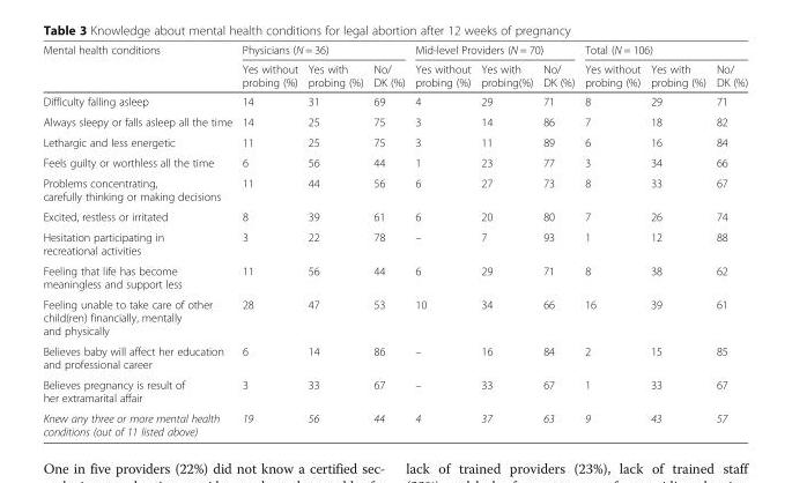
<table><thead><tr><td rowspan="2">Mental health conditions</td><td colspan="3">Physicians (N = 36)</td><td colspan="3">Mid-level Providers (N = 70)</td><td colspan="3">Total (N = 106)</td></tr><tr><td>Yes without probing (%)</td><td>Yes with probing (%)</td><td>No/ DK (%)</td><td>Yes without probing (%)</td><td>Yes with probing(%)</td><td>No/ DK (%)</td><td>Yes without probing (%)</td><td>Yes with probing (%)</td><td>No/ DK (%)</td></tr></thead><tbody><tr><td>Difficulty falling asleep</td><td>14</td><td>31</td><td>69</td><td>4</td><td>29</td><td>71</td><td>8</td><td>29</td><td>71</td></tr><tr><td>Always sleepy or falls asleep all the time</td><td>14</td><td>25</td><td>75</td><td>3</td><td>14</td><td>86</td><td>7</td><td>18</td><td>82</td></tr><tr><td>Lethargic and less energetic</td><td>11</td><td>25</td><td>75</td><td>3</td><td>11</td><td>89</td><td>6</td><td>16</td><td>84</td></tr><tr><td>Feels guilty or worthless all the time</td><td>6</td><td>56</td><td>44</td><td>1</td><td>23</td><td>77</td><td>3</td><td>34</td><td>66</td></tr><tr><td>Problems concentrating, carefully thinking or making decisions</td><td>11</td><td>44</td><td>56</td><td>6</td><td>27</td><td>73</td><td>8</td><td>33</td><td>67</td></tr><tr><td>Excited, restless or irritated</td><td>8</td><td>39</td><td>61</td><td>6</td><td>20</td><td>80</td><td>7</td><td>26</td><td>74</td></tr><tr><td>Hesitation participating in recreational activities</td><td>3</td><td>22</td><td>78</td><td>–</td><td>7</td><td>93</td><td>1</td><td>12</td><td>88</td></tr><tr><td>Feeling that life has become meaningless and support less</td><td>11</td><td>56</td><td>44</td><td>6</td><td>29</td><td>71</td><td>8</td><td>38</td><td>62</td></tr><tr><td>Feeling unable to take care of other child(ren) financially, mentally and physically</td><td>28</td><td>47</td><td>53</td><td>10</td><td>34</td><td>66</td><td>16</td><td>39</td><td>61</td></tr><tr><td>Believes baby will affect her education and professional career</td><td>6</td><td>14</td><td>86</td><td>–</td><td>16</td><td>84</td><td>2</td><td>15</td><td>85</td></tr><tr><td>Believes pregnancy is result of her extramarital affair</td><td>3</td><td>33</td><td>67</td><td>–</td><td>33</td><td>67</td><td>1</td><td>33</td><td>67</td></tr><tr><td>Knew any three or more mental health conditions (out of 11 listed above)</td><td>19</td><td>56</td><td>44</td><td>4</td><td>37</td><td>63</td><td>9</td><td>43</td><td>57</td></tr></tbody></table>